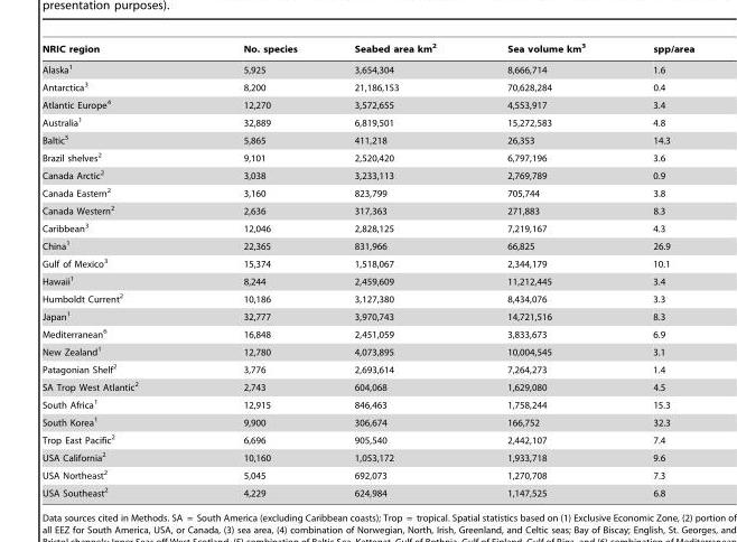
<table><thead><tr><td>NRIC region</td><td>No. species</td><td>Seabed area km<sup>2</sup></td><td>Sea volume km<sup>3</sup></td><td>spp/area</td></tr></thead><tbody><tr><td>Alaska<sup>1</sup></td><td>5,925</td><td>3,654,304</td><td>8,666,714</td><td>1.6</td></tr><tr><td>Antarctica<sup>3</sup></td><td>8,200</td><td>21,186,153</td><td>70,628,284</td><td>0.4</td></tr><tr><td>Atlantic Europe<sup>4</sup></td><td>12,270</td><td>3,572,655</td><td>4,553,917</td><td>3.4</td></tr><tr><td>Australia<sup>1</sup></td><td>32,889</td><td>6,819,501</td><td>15,272,583</td><td>4.8</td></tr><tr><td>Baltic<sup>5</sup></td><td>5,865</td><td>411,218</td><td>26,353</td><td>14.3</td></tr><tr><td>Brazil shelves<sup>2</sup></td><td>9,101</td><td>2,520,420</td><td>6,797,196</td><td>3.6</td></tr><tr><td>Canada Arctic<sup>2</sup></td><td>3,038</td><td>3,233,113</td><td>2,769,789</td><td>0.9</td></tr><tr><td>Canada Eastern<sup>2</sup></td><td>3,160</td><td>823,799</td><td>705,744</td><td>3.8</td></tr><tr><td>Canada Western<sup>2</sup></td><td>2,636</td><td>317,363</td><td>271,883</td><td>8.3</td></tr><tr><td>Caribbean<sup>3</sup></td><td>12,046</td><td>2,828,125</td><td>7,219,167</td><td>4.3</td></tr><tr><td>China<sup>1</sup></td><td>22,365</td><td>831,966</td><td>66,825</td><td>26.9</td></tr><tr><td>Gulf of Mexico<sup>3</sup></td><td>15,374</td><td>1,518,067</td><td>2,344,179</td><td>10.1</td></tr><tr><td>Hawaii<sup>1</sup></td><td>8,244</td><td>2,459,609</td><td>11,212,445</td><td>3.4</td></tr><tr><td>Humboldt Current<sup>2</sup></td><td>10,186</td><td>3,127,380</td><td>8,434,076</td><td>3.3</td></tr><tr><td>Japan<sup>1</sup></td><td>32,777</td><td>3,970,743</td><td>14,721,516</td><td>8.3</td></tr><tr><td>Mediterranean<sup>6</sup></td><td>16,848</td><td>2,451,059</td><td>3,833,673</td><td>6.9</td></tr><tr><td>New Zealand<sup>1</sup></td><td>12,780</td><td>4,073,895</td><td>10,004,545</td><td>3.1</td></tr><tr><td>Patagonian Shelf<sup>2</sup></td><td>3,776</td><td>2,693,614</td><td>7,264,273</td><td>1.4</td></tr><tr><td>SA Trop West Atlantic<sup>2</sup></td><td>2,743</td><td>604,068</td><td>1,629,080</td><td>4.5</td></tr><tr><td>South Africa<sup>1</sup></td><td>12,915</td><td>846,463</td><td>1,758,244</td><td>15.3</td></tr><tr><td>South Korea<sup>1</sup></td><td>9,900</td><td>306,674</td><td>166,752</td><td>32.3</td></tr><tr><td>Trop East Pacific<sup>2</sup></td><td>6,696</td><td>905,540</td><td>2,442,107</td><td>7.4</td></tr><tr><td>USA California<sup>2</sup></td><td>10,160</td><td>1,053,172</td><td>1,933,718</td><td>9.6</td></tr><tr><td>USA Northeast<sup>2</sup></td><td>5,045</td><td>692,073</td><td>1,270,708</td><td>7.3</td></tr><tr><td>USA Southeast<sup>2</sup></td><td>4,229</td><td>624,984</td><td>1,147,525</td><td>6.8</td></tr></tbody></table>